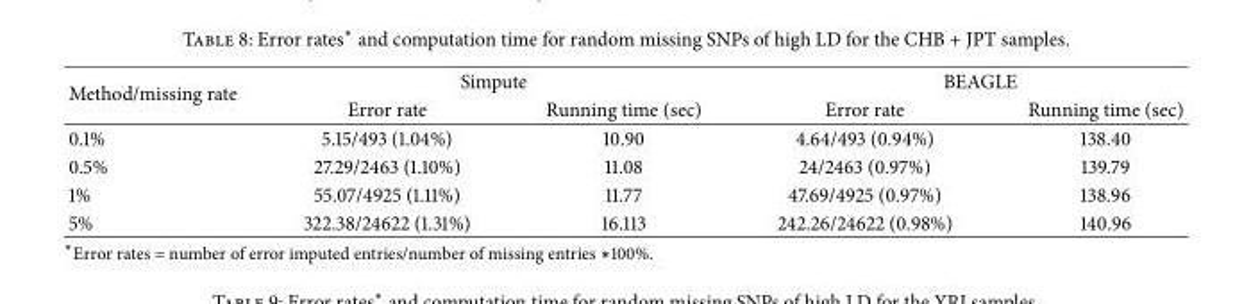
<table><thead><tr><td rowspan="2">Method/missing rate</td><td colspan="2">Simpute</td><td colspan="2">BEAGLE</td></tr><tr><td>Error rate</td><td>Running time (sec)</td><td>Error rate</td><td>Running time (sec)</td></tr></thead><tbody><tr><td>0.1%</td><td>5.15/493 (1.04%)</td><td>10.90</td><td>4.64/493 (0.94%)</td><td>138.40</td></tr><tr><td>0.5%</td><td>27.29/2463 (1.10%)</td><td>11.08</td><td>24/2463 (0.97%)</td><td>139.79</td></tr><tr><td>1%</td><td>55.07/4925 (1.11%)</td><td>11.77</td><td>47.69/4925 (0.97%)</td><td>138.96</td></tr><tr><td>5%</td><td>322.38/24622 (1.31%)</td><td>16.113</td><td>242.26/24622 (0.98%)</td><td>140.96</td></tr></tbody></table>